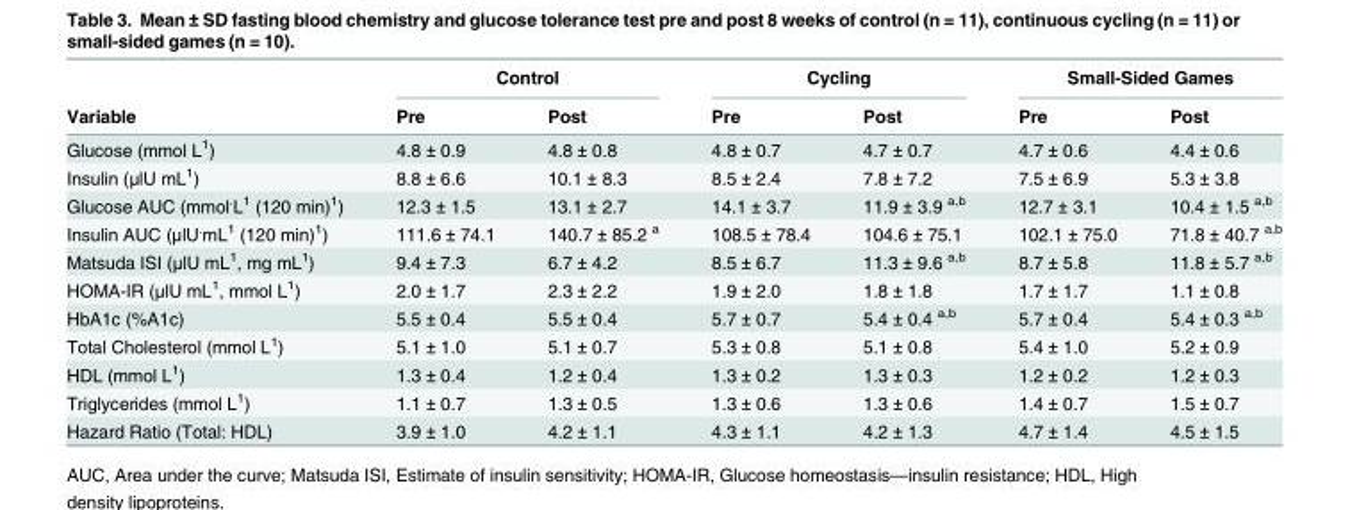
<table><thead><tr><td rowspan="2">Variable</td><td colspan="2">Control</td><td colspan="2">Cycling</td><td colspan="2">Small-Sided Games</td></tr><tr><td>Pre</td><td>Post</td><td>Pre</td><td>Post</td><td>Pre</td><td>Post</td></tr></thead><tbody><tr><td>Glucose (mmol L<sup>1</sup>)</td><td>4.8 ± 0.9</td><td>4.8 ± 0.8</td><td>4.8 ± 0.7</td><td>4.7 ± 0.7</td><td>4.7 ± 0.6</td><td>4.4 ± 0.6</td></tr><tr><td>Insulin (μlU mL<sup>1</sup>)</td><td>8.8 ± 6.6</td><td>10.1 ± 8.3</td><td>8.5 ± 2.4</td><td>7.8 ± 7.2</td><td>7.5 ± 6.9</td><td>5.3 ± 3.8</td></tr><tr><td>Glucose AUC (mmol<sup>.</sup>L<sup>1</sup> (120 min)<sup>1</sup>)</td><td>12.3 ± 1.5</td><td>13.1 ± 2.7</td><td>14.1 ± 3.7</td><td>11.9 ± 3.9 <sup>a,b</sup></td><td>12.7 ± 3.1</td><td>10.4 ± 1.5 <sup>a,b</sup></td></tr><tr><td>Insulin AUC (μlU<sup>.</sup>mL<sup>1</sup> (120 min)<sup>1</sup>)</td><td>111.6 ± 74.1</td><td>140.7 ± 85.2 <sup>a</sup></td><td>108.5 ± 78.4</td><td>104.6 ± 75.1</td><td>102.1 ± 75.0</td><td>71.8 ± 40.7 <sup>a,b</sup></td></tr><tr><td>Matsuda ISI (μlU mL<sup>1</sup>, mg mL<sup>1</sup>)</td><td>9.4 ± 7.3</td><td>6.7 ± 4.2</td><td>8.5 ± 6.7</td><td>11.3 ± 9.6 <sup>a,b</sup></td><td>8.7 ± 5.8</td><td>11.8 ± 5.7 <sup>a,b</sup></td></tr><tr><td>HOMA-IR (μlU mL<sup>1</sup>, mmol L<sup>1</sup>)</td><td>2.0 ± 1.7</td><td>2.3 ± 2.2</td><td>1.9 ± 2.0</td><td>1.8 ± 1.8</td><td>1.7 ± 1.7</td><td>1.1 ± 0.8</td></tr><tr><td>HbA1c (%A1c)</td><td>5.5 ± 0.4</td><td>5.5 ± 0.4</td><td>5.7 ± 0.7</td><td>5.4 ± 0.4 <sup>a,b</sup></td><td>5.7 ± 0.4</td><td>5.4 ± 0.3 <sup>a,b</sup></td></tr><tr><td>Total Cholesterol (mmol L<sup>1</sup>)</td><td>5.1 ± 1.0</td><td>5.1 ± 0.7</td><td>5.3 ± 0.8</td><td>5.1 ± 0.8</td><td>5.4 ± 1.0</td><td>5.2 ± 0.9</td></tr><tr><td>HDL (mmol L<sup>1</sup>)</td><td>1.3 ± 0.4</td><td>1.2 ± 0.4</td><td>1.3 ± 0.2</td><td>1.3 ± 0.3</td><td>1.2 ± 0.2</td><td>1.2 ± 0.3</td></tr><tr><td>Triglycerides (mmol L<sup>1</sup>)</td><td>1.1 ± 0.7</td><td>1.3 ± 0.5</td><td>1.3 ± 0.6</td><td>1.3 ± 0.6</td><td>1.4 ± 0.7</td><td>1.5 ± 0.7</td></tr><tr><td>Hazard Ratio (Total: HDL)</td><td>3.9 ± 1.0</td><td>4.2 ± 1.1</td><td>4.3 ± 1.1</td><td>4.2 ± 1.3</td><td>4.7 ± 1.4</td><td>4.5 ± 1.5</td></tr></tbody></table>